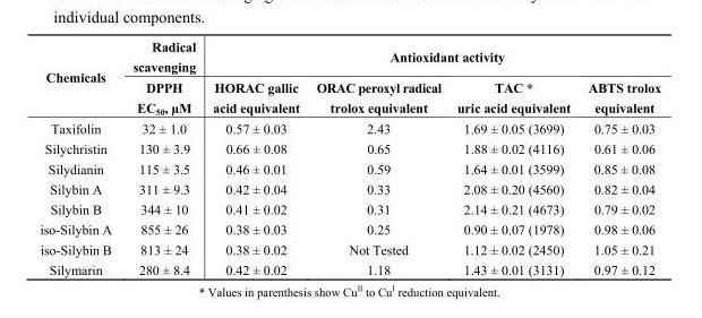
<table><thead><tr><td rowspan="2">Chemicals</td><td rowspan="2">Radical scavenging DPPH EC<sub>50</sub>, µM</td><td colspan="4">Antioxidant activity</td></tr><tr><td>HORAC gallic acid equivalent</td><td>ORAC peroxyl radical trolox equivalent</td><td>TAC * uric acid equivalent</td><td>ABTS trolox equivalent</td></tr></thead><tbody><tr><td>Taxifolin</td><td>32 ± 1.0</td><td>0.57 ± 0.03</td><td>2.43</td><td>1.69 ± 0.05 (3699)</td><td>0.75 ± 0.03</td></tr><tr><td>Silychristin</td><td>130 ± 3.9</td><td>0.66 ± 0.08</td><td>0.65</td><td>1.88 ± 0.02 (4116)</td><td>0.61 ± 0.06</td></tr><tr><td>Silydianin</td><td>115 ± 3.5</td><td>0.46 ± 0.01</td><td>0.59</td><td>1.64 ± 0.01 (3599)</td><td>0.85 ± 0.08</td></tr><tr><td>Silybin A</td><td>311 ± 9.3</td><td>0.42 ± 0.04</td><td>0.33</td><td>2.08 ± 0.20 (4560)</td><td>0.82 ± 0.04</td></tr><tr><td>Silybin B</td><td>344 ± 10</td><td>0.41 ± 0.02</td><td>0.31</td><td>2.14 ± 0.21 (4673)</td><td>0.79 ± 0.02</td></tr><tr><td>iso-Silybin A</td><td>855 ± 26</td><td>0.38 ± 0.03</td><td>0.25</td><td>0.90 ± 0.07 (1978)</td><td>0.98 ± 0.06</td></tr><tr><td>iso-Silybin B</td><td>813 ± 24</td><td>0.38 ± 0.02</td><td>Not Tested</td><td>1.12 ± 0.02 (2450)</td><td>1.05 ± 0.21</td></tr><tr><td>Silymarin</td><td>280 ± 8.4</td><td>0.42 ± 0.02</td><td>1.18</td><td>1.43 ± 0.01 (3131)</td><td>0.97 ± 0.12</td></tr></tbody></table>